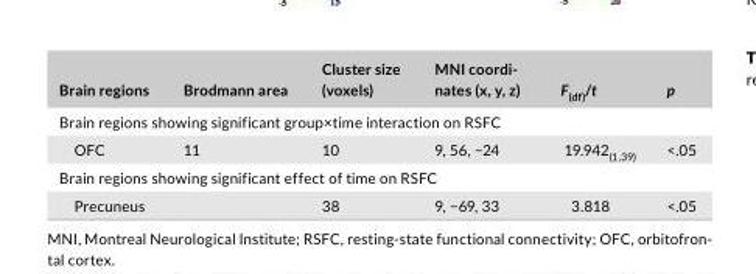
<table><thead><tr><td>Brain regions</td><td>Brodmann area</td><td>Cluster size (voxels)</td><td>MNI coordi- nates (x, y, z)</td><td>F<sub>(df)</sub>/t</td><td>p</td></tr></thead><tbody><tr><td colspan="6">Brain regions showing significant group×time interaction on RSFC</td></tr><tr><td>OFC</td><td>11</td><td>10</td><td>9, 56, −24</td><td>19.942<sub>(1,39)</sub></td><td>&lt;.05</td></tr><tr><td colspan="6">Brain regions showing significant effect of time on RSFC</td></tr><tr><td>Precuneus</td><td></td><td>38</td><td>9, −69, 33</td><td>3.818</td><td>&lt;.05</td></tr></tbody></table>